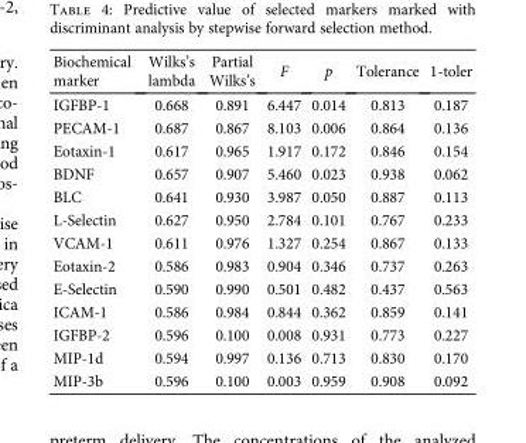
<table><thead><tr><td>Biochemical marker</td><td>Wilks’s lambda</td><td>Partial Wilks’s</td><td>F</td><td>p</td><td>Tolerance</td><td>1-toler</td></tr></thead><tbody><tr><td>IGFBP-1</td><td>0.668</td><td>0.891</td><td>6.447</td><td>0.014</td><td>0.813</td><td>0.187</td></tr><tr><td>PECAM-1</td><td>0.687</td><td>0.867</td><td>8.103</td><td>0.006</td><td>0.864</td><td>0.136</td></tr><tr><td>Eotaxin-1</td><td>0.617</td><td>0.965</td><td>1.917</td><td>0.172</td><td>0.846</td><td>0.154</td></tr><tr><td>BDNF</td><td>0.657</td><td>0.907</td><td>5.460</td><td>0.023</td><td>0.938</td><td>0.062</td></tr><tr><td>BLC</td><td>0.641</td><td>0.930</td><td>3.987</td><td>0.050</td><td>0.887</td><td>0.113</td></tr><tr><td>L-Selectin</td><td>0.627</td><td>0.950</td><td>2.784</td><td>0.101</td><td>0.767</td><td>0.233</td></tr><tr><td>VCAM-1</td><td>0.611</td><td>0.976</td><td>1.327</td><td>0.254</td><td>0.867</td><td>0.133</td></tr><tr><td>Eotaxin-2</td><td>0.586</td><td>0.983</td><td>0.904</td><td>0.346</td><td>0.737</td><td>0.263</td></tr><tr><td>E-Selectin</td><td>0.590</td><td>0.990</td><td>0.501</td><td>0.482</td><td>0.437</td><td>0.563</td></tr><tr><td>ICAM-1</td><td>0.586</td><td>0.984</td><td>0.844</td><td>0.362</td><td>0.859</td><td>0.141</td></tr><tr><td>IGFBP-2</td><td>0.596</td><td>0.100</td><td>0.008</td><td>0.931</td><td>0.773</td><td>0.227</td></tr><tr><td>MIP-1d</td><td>0.594</td><td>0.997</td><td>0.136</td><td>0.713</td><td>0.830</td><td>0.170</td></tr><tr><td>MIP-3b</td><td>0.596</td><td>0.100</td><td>0.003</td><td>0.959</td><td>0.908</td><td>0.092</td></tr></tbody></table>